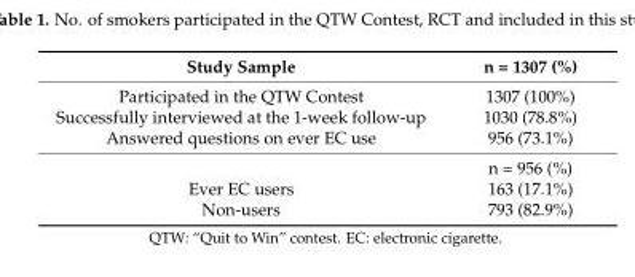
<table><thead><tr><td>Study Sample</td><td>n = 1307 (%)</td></tr></thead><tbody><tr><td>Participated in the QTW Contest</td><td>1307 (100%)</td></tr><tr><td>Successfully interviewed at the 1-week follow-up</td><td>1030 (78.8%)</td></tr><tr><td rowspan="2">Answered questions on ever EC use</td><td>956 (73.1%)</td></tr><tr><td>n = 956 (%)</td></tr><tr><td>Ever EC users</td><td>163 (17.1%)</td></tr><tr><td>Non-users</td><td>793 (82.9%)</td></tr></tbody></table>